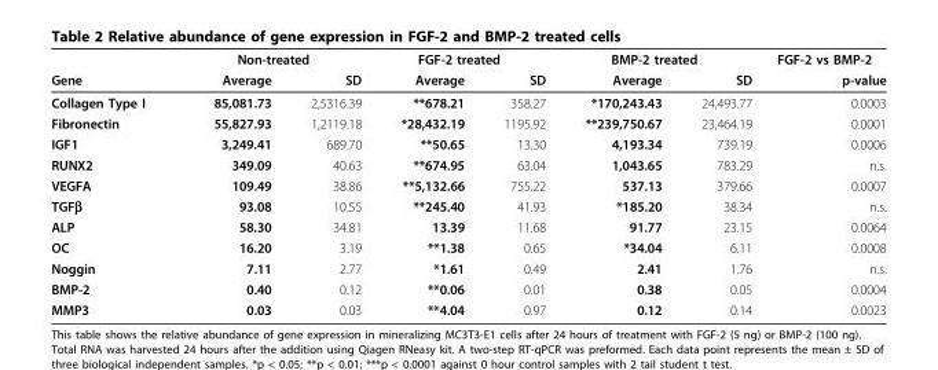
<table><thead><tr><td rowspan="2">Gene</td><td colspan="2">Non-treated</td><td colspan="2">FGF-2 treated</td><td colspan="2">BMP-2 treated</td><td rowspan="2">FGF-2 vs BMP-2 p-value</td></tr><tr><td>Average</td><td>SD</td><td>Average</td><td>SD</td><td>Average</td><td>SD</td></tr></thead><tbody><tr><td>Collagen Type I</td><td>85,081.73</td><td>2,5316.39</td><td>**678.21</td><td>358.27</td><td>*170,243.43</td><td>24,493.77</td><td>0.0003</td></tr><tr><td>Fibronectin</td><td>55,827.93</td><td>1,2119.18</td><td>*28,432.19</td><td>1195.92</td><td>**239,750.67</td><td>23,464.19</td><td>0.0001</td></tr><tr><td>IGF1</td><td>3,249.41</td><td>689.70</td><td>**50.65</td><td>13.30</td><td>4,193.34</td><td>739.19</td><td>0.0006</td></tr><tr><td>RUNX2</td><td>349.09</td><td>40.63</td><td>**674.95</td><td>63.04</td><td>1,043.65</td><td>783.29</td><td>n.s.</td></tr><tr><td>VEGFA</td><td>109.49</td><td>38.86</td><td>**5,132.66</td><td>755.22</td><td>537.13</td><td>379.66</td><td>0.0007</td></tr><tr><td>TGFβ</td><td>93.08</td><td>10.55</td><td>**245.40</td><td>41.93</td><td>*185.20</td><td>38.34</td><td>n.s.</td></tr><tr><td>ALP</td><td>58.30</td><td>34.81</td><td>13.39</td><td>11.68</td><td>91.77</td><td>23.15</td><td>0.0064</td></tr><tr><td>OC</td><td>16.20</td><td>3.19</td><td>**1.38</td><td>0.65</td><td>*34.04</td><td>6.11</td><td>0.0008</td></tr><tr><td>Noggin</td><td>7.11</td><td>2.77</td><td>*1.61</td><td>0.49</td><td>2.41</td><td>1.76</td><td>n.s.</td></tr><tr><td>BMP-2</td><td>0.40</td><td>0.12</td><td>**0.06</td><td>0.01</td><td>0.38</td><td>0.05</td><td>0.0004</td></tr><tr><td>MMP3</td><td>0.03</td><td>0.03</td><td>**4.04</td><td>0.97</td><td>0.12</td><td>0.14</td><td>0.0023</td></tr></tbody></table>